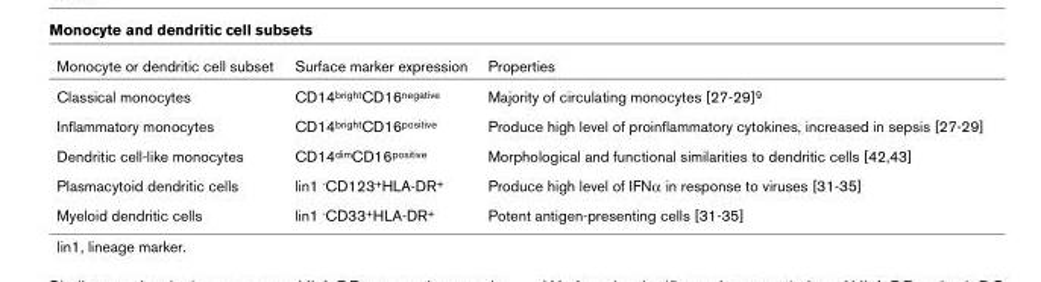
<table><thead><tr><td>Monocyte or dendritic cell subset</td><td>Surface marker expression</td><td>Properties</td></tr></thead><tbody><tr><td>Classical monocytes</td><td>CD14<sup>bright</sup>CD16<sup>negative</sup></td><td>Majority of circulating monocytes [27-29]<sup>9</sup></td></tr><tr><td>Inflammatory monocytes</td><td>CD14<sup>bright</sup>CD16<sup>positive</sup></td><td>Produce high level of proinflammatory cytokines, increased in sepsis [27-29]</td></tr><tr><td>Dendritic cell-like monocytes</td><td>CD14<sup>dim</sup>CD16<sup>positive</sup></td><td>Morphological and functional similarities to dendritic cells [42,43]</td></tr><tr><td>Plasmacytoid dendritic cells</td><td>lin1 <sup>-</sup>CD123<sup>+</sup>HLA-DR<sup>+</sup></td><td>Produce high level of IFNα in response to viruses [31-35]</td></tr><tr><td>Myeloid dendritic cells</td><td>lin1 <sup>-</sup>CD33<sup>+</sup>HLA-DR<sup>+</sup></td><td>Potent antigen-presenting cells [31-35]</td></tr></tbody></table>